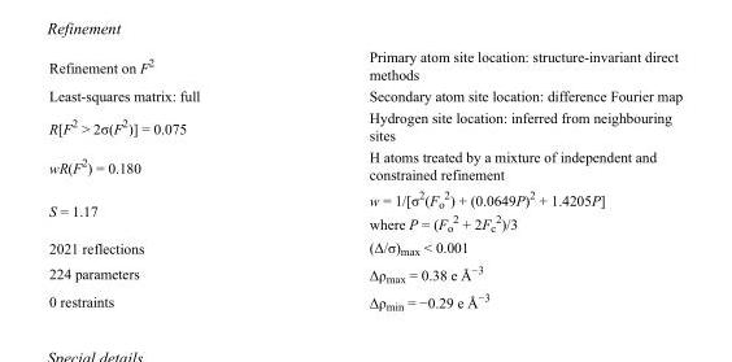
<table><tbody><tr><td>Refinement on F<sup>2</sup></td><td>Primary atom site location: structure-invariant direct methods</td></tr><tr><td>Least-squares matrix: full</td><td>Secondary atom site location: difference Fourier map</td></tr><tr><td>R[F<sup>2</sup> &gt; 2σ(F<sup>2</sup>)] = 0.075</td><td>Hydrogen site location: inferred from neighbouring sites</td></tr><tr><td>wR(F<sup>2</sup>) = 0.180</td><td>H atoms treated by a mixture of independent and constrained refinement</td></tr><tr><td>S = 1.17</td><td>w = 1/[σ<sup>2</sup>(F<sub>o</sub> <sup>2</sup>) + (0.0649P)<sup>2</sup> + 1.4205P] where P = (F<sub>o</sub> <sup>2</sup> + 2F<sub>c</sub> <sup>2</sup>)/3</td></tr><tr><td>2021 reflections</td><td>(Δ/σ)<sub>max</sub> &lt; 0.001</td></tr><tr><td>224 parameters</td><td>Δρ<sub>max</sub> = 0.38 e Å<sup>−3</sup></td></tr><tr><td>0 restraints</td><td>Δρ<sub>min</sub> = −0.29 e Å<sup>−3</sup></td></tr></tbody></table>